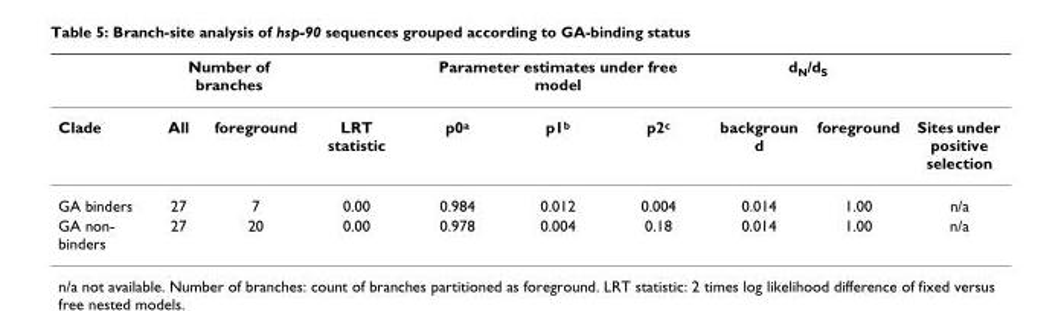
<table><thead><tr><td rowspan="2">Clade</td><td colspan="2">Number of branches</td><td rowspan="2">LRT statistic</td><td colspan="3">Parameter estimates under free model</td><td colspan="2">d<sub>N</sub>/d<sub>S</sub></td><td rowspan="2">Sites under positive selection</td></tr><tr><td>All</td><td>foreground</td><td>p0<sup>a</sup></td><td>p1<sup>b</sup></td><td>p2<sup>c</sup></td><td>backgroun d</td><td>foreground</td></tr></thead><tbody><tr><td>GA binders</td><td>27</td><td>7</td><td>0.00</td><td>0.984</td><td>0.012</td><td>0.004</td><td>0.014</td><td>1.00</td><td>n/a</td></tr><tr><td>GA non- binders</td><td>27</td><td>20</td><td>0.00</td><td>0.978</td><td>0.004</td><td>0.18</td><td>0.014</td><td>1.00</td><td>n/a</td></tr></tbody></table>